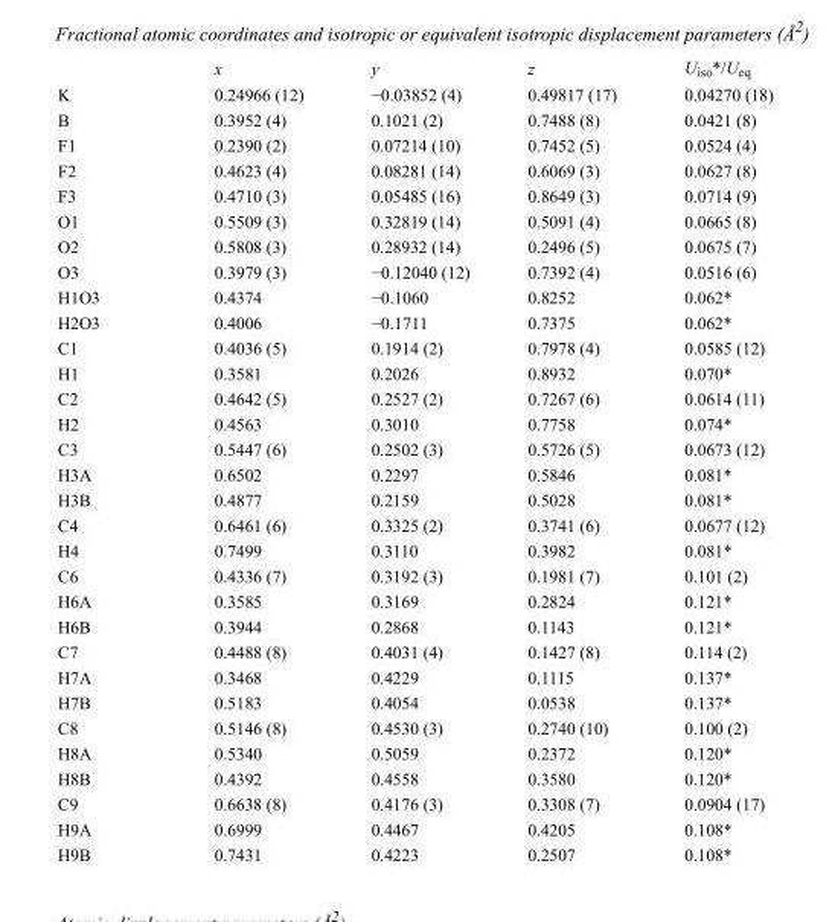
<table><thead><tr><td></td><td>x</td><td>y</td><td>z</td><td>U<sub>iso</sub>*/U<sub>eq</sub></td></tr></thead><tbody><tr><td>K</td><td>0.24966 (12)</td><td>−0.03852 (4)</td><td>0.49817 (17)</td><td>0.04270 (18)</td></tr><tr><td>B</td><td>0.3952 (4)</td><td>0.1021 (2)</td><td>0.7488 (8)</td><td>0.0421 (8)</td></tr><tr><td>F1</td><td>0.2390 (2)</td><td>0.07214 (10)</td><td>0.7452 (5)</td><td>0.0524 (4)</td></tr><tr><td>F2</td><td>0.4623 (4)</td><td>0.08281 (14)</td><td>0.6069 (3)</td><td>0.0627 (8)</td></tr><tr><td>F3</td><td>0.4710 (3)</td><td>0.05485 (16)</td><td>0.8649 (3)</td><td>0.0714 (9)</td></tr><tr><td>O1</td><td>0.5509 (3)</td><td>0.32819 (14)</td><td>0.5091 (4)</td><td>0.0665 (8)</td></tr><tr><td>O2</td><td>0.5808 (3)</td><td>0.28932 (14)</td><td>0.2496 (5)</td><td>0.0675 (7)</td></tr><tr><td>O3</td><td>0.3979 (3)</td><td>−0.12040 (12)</td><td>0.7392 (4)</td><td>0.0516 (6)</td></tr><tr><td>H1O3</td><td>0.4374</td><td>−0.1060</td><td>0.8252</td><td>0.062*</td></tr><tr><td>H2O3</td><td>0.4006</td><td>−0.1711</td><td>0.7375</td><td>0.062*</td></tr><tr><td>C1</td><td>0.4036 (5)</td><td>0.1914 (2)</td><td>0.7978 (4)</td><td>0.0585 (12)</td></tr><tr><td>H1</td><td>0.3581</td><td>0.2026</td><td>0.8932</td><td>0.070*</td></tr><tr><td>C2</td><td>0.4642 (5)</td><td>0.2527 (2)</td><td>0.7267 (6)</td><td>0.0614 (11)</td></tr><tr><td>H2</td><td>0.4563</td><td>0.3010</td><td>0.7758</td><td>0.074*</td></tr><tr><td>C3</td><td>0.5447 (6)</td><td>0.2502 (3)</td><td>0.5726 (5)</td><td>0.0673 (12)</td></tr><tr><td>H3A</td><td>0.6502</td><td>0.2297</td><td>0.5846</td><td>0.081*</td></tr><tr><td>H3B</td><td>0.4877</td><td>0.2159</td><td>0.5028</td><td>0.081*</td></tr><tr><td>C4</td><td>0.6461 (6)</td><td>0.3325 (2)</td><td>0.3741 (6)</td><td>0.0677 (12)</td></tr><tr><td>H4</td><td>0.7499</td><td>0.3110</td><td>0.3982</td><td>0.081*</td></tr><tr><td>C6</td><td>0.4336 (7)</td><td>0.3192 (3)</td><td>0.1981 (7)</td><td>0.101 (2)</td></tr><tr><td>H6A</td><td>0.3585</td><td>0.3169</td><td>0.2824</td><td>0.121*</td></tr><tr><td>H6B</td><td>0.3944</td><td>0.2868</td><td>0.1143</td><td>0.121*</td></tr><tr><td>C7</td><td>0.4488 (8)</td><td>0.4031 (4)</td><td>0.1427 (8)</td><td>0.114 (2)</td></tr><tr><td>H7A</td><td>0.3468</td><td>0.4229</td><td>0.1115</td><td>0.137*</td></tr><tr><td>H7B</td><td>0.5183</td><td>0.4054</td><td>0.0538</td><td>0.137*</td></tr><tr><td>C8</td><td>0.5146 (8)</td><td>0.4530 (3)</td><td>0.2740 (10)</td><td>0.100 (2)</td></tr><tr><td>H8A</td><td>0.5340</td><td>0.5059</td><td>0.2372</td><td>0.120*</td></tr><tr><td>H8B</td><td>0.4392</td><td>0.4558</td><td>0.3580</td><td>0.120*</td></tr><tr><td>C9</td><td>0.6638 (8)</td><td>0.4176 (3)</td><td>0.3308 (7)</td><td>0.0904 (17)</td></tr><tr><td>H9A</td><td>0.6999</td><td>0.4467</td><td>0.4205</td><td>0.108*</td></tr><tr><td>H9B</td><td>0.7431</td><td>0.4223</td><td>0.2507</td><td>0.108*</td></tr></tbody></table>